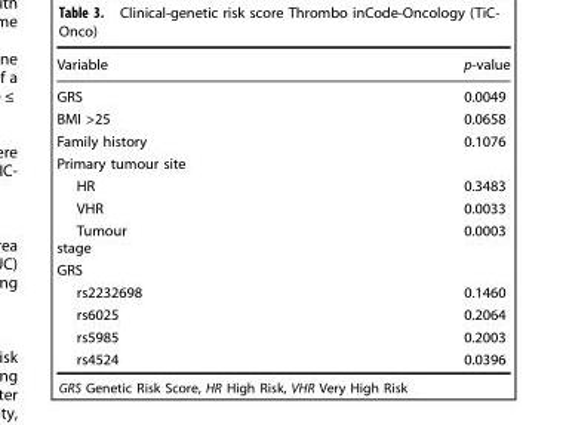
<table><thead><tr><td>Variable</td><td>p-value</td></tr></thead><tbody><tr><td>GRS</td><td>0.0049</td></tr><tr><td>BMI &gt;25</td><td>0.0658</td></tr><tr><td>Family history</td><td>0.1076</td></tr><tr><td colspan="2">Primary tumour site</td></tr><tr><td>HR</td><td>0.3483</td></tr><tr><td>VHR</td><td>0.0033</td></tr><tr><td>Tumour stage</td><td>0.0003</td></tr><tr><td colspan="2">GRS</td></tr><tr><td>rs2232698</td><td>0.1460</td></tr><tr><td>rs6025</td><td>0.2064</td></tr><tr><td>rs5985</td><td>0.2003</td></tr><tr><td>rs4524</td><td>0.0396</td></tr></tbody></table>